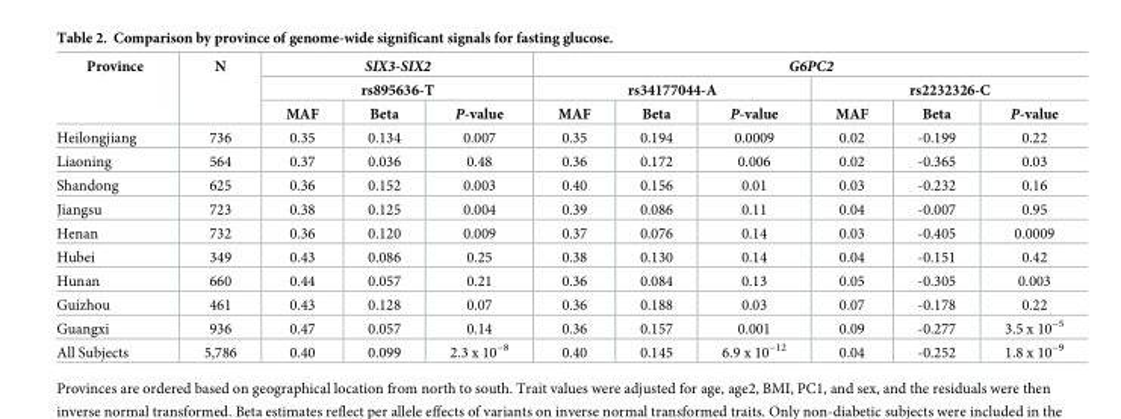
<table><thead><tr><td rowspan="3">Province</td><td rowspan="3">N</td><td rowspan="2" colspan="3">SIX3-SIX2 rs895636-T</td><td colspan="6">G6PC2</td></tr><tr><td colspan="3">rs34177044-A</td><td colspan="3">rs2232326-C</td></tr><tr><td>MAF</td><td>Beta</td><td>P-value</td><td>MAF</td><td>Beta</td><td>P-value</td><td>MAF</td><td>Beta</td><td>P-value</td></tr></thead><tbody><tr><td>Heilongjiang</td><td>736</td><td>0.35</td><td>0.134</td><td>0.007</td><td>0.35</td><td>0.194</td><td>0.0009</td><td>0.02</td><td>-0.199</td><td>0.22</td></tr><tr><td>Liaoning</td><td>564</td><td>0.37</td><td>0.036</td><td>0.48</td><td>0.36</td><td>0.172</td><td>0.006</td><td>0.02</td><td>-0.365</td><td>0.03</td></tr><tr><td>Shandong</td><td>625</td><td>0.36</td><td>0.152</td><td>0.003</td><td>0.40</td><td>0.156</td><td>0.01</td><td>0.03</td><td>-0.232</td><td>0.16</td></tr><tr><td>Jiangsu</td><td>723</td><td>0.38</td><td>0.125</td><td>0.004</td><td>0.39</td><td>0.086</td><td>0.11</td><td>0.04</td><td>-0.007</td><td>0.95</td></tr><tr><td>Henan</td><td>732</td><td>0.36</td><td>0.120</td><td>0.009</td><td>0.37</td><td>0.076</td><td>0.14</td><td>0.03</td><td>-0.405</td><td>0.0009</td></tr><tr><td>Hubei</td><td>349</td><td>0.43</td><td>0.086</td><td>0.25</td><td>0.38</td><td>0.130</td><td>0.14</td><td>0.04</td><td>-0.151</td><td>0.42</td></tr><tr><td>Hunan</td><td>660</td><td>0.44</td><td>0.057</td><td>0.21</td><td>0.36</td><td>0.084</td><td>0.13</td><td>0.05</td><td>-0.305</td><td>0.003</td></tr><tr><td>Guizhou</td><td>461</td><td>0.43</td><td>0.128</td><td>0.07</td><td>0.36</td><td>0.188</td><td>0.03</td><td>0.07</td><td>-0.178</td><td>0.22</td></tr><tr><td>Guangxi</td><td>936</td><td>0.47</td><td>0.057</td><td>0.14</td><td>0.36</td><td>0.157</td><td>0.001</td><td>0.09</td><td>-0.277</td><td>3.5 x 10<sup>−5</sup></td></tr><tr><td>All Subjects</td><td>5,786</td><td>0.40</td><td>0.099</td><td>2.3 x 10<sup>−8</sup></td><td>0.40</td><td>0.145</td><td>6.9 x 10<sup>−12</sup></td><td>0.04</td><td>-0.252</td><td>1.8 x 10<sup>−9</sup></td></tr></tbody></table>